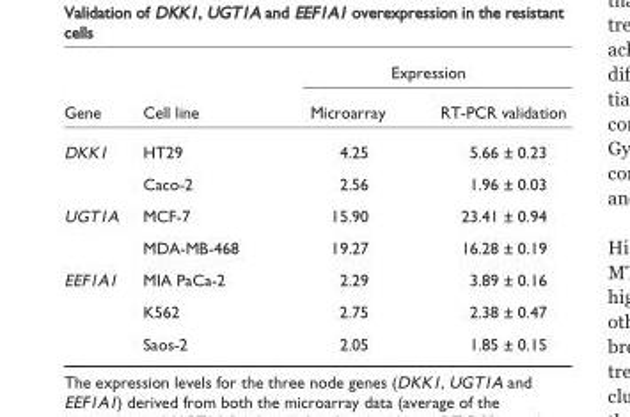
<table><thead><tr><td rowspan="2">Gene</td><td rowspan="2">Cell line</td><td colspan="2">Expression</td></tr><tr><td>Microarray</td><td>RT-PCR validation</td></tr></thead><tbody><tr><td rowspan="2">DKK1</td><td>HT29</td><td>4.25</td><td>5.66 ± 0.23</td></tr><tr><td>Caco-2</td><td>2.56</td><td>1.96 ± 0.03</td></tr><tr><td rowspan="2">UGT1A</td><td>MCF-7</td><td>15.90</td><td>23.41 ± 0.94</td></tr><tr><td>MDA-MB-468</td><td>19.27</td><td>16.28 ± 0.19</td></tr><tr><td rowspan="3">EEF1A1</td><td>MIA PaCa-2</td><td>2.29</td><td>3.89 ± 0.16</td></tr><tr><td>K562</td><td>2.75</td><td>2.38 ± 0.47</td></tr><tr><td>Saos-2</td><td>2.05</td><td>1.85 ± 0.15</td></tr></tbody></table>